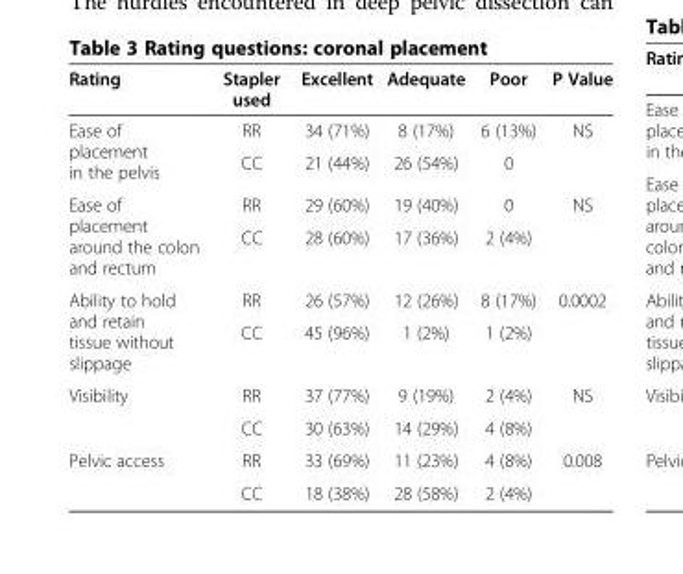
<table><thead><tr><td>Rating</td><td>Stapler used</td><td>Excellent</td><td>Adequate</td><td>Poor</td><td>P Value</td></tr></thead><tbody><tr><td rowspan="2">Ease of placement in the pelvis</td><td>RR</td><td>34 (71%)</td><td>8 (17%)</td><td>6 (13%)</td><td rowspan="2">NS</td></tr><tr><td>CC</td><td>21 (44%)</td><td>26 (54%)</td><td>0</td></tr><tr><td rowspan="2">Ease of placement around the colon and rectum</td><td>RR</td><td>29 (60%)</td><td>19 (40%)</td><td>0</td><td rowspan="2">NS</td></tr><tr><td>CC</td><td>28 (60%)</td><td>17 (36%)</td><td>2 (4%)</td></tr><tr><td rowspan="2">Ability to hold and retain tissue without slippage</td><td>RR</td><td>26 (57%)</td><td>12 (26%)</td><td>8 (17%)</td><td rowspan="2">0.0002</td></tr><tr><td>CC</td><td>45 (96%)</td><td>1 (2%)</td><td>1 (2%)</td></tr><tr><td rowspan="2">Visibility</td><td>RR</td><td>37 (77%)</td><td>9 (19%)</td><td>2 (4%)</td><td rowspan="2">NS</td></tr><tr><td>CC</td><td>30 (63%)</td><td>14 (29%)</td><td>4 (8%)</td></tr><tr><td rowspan="2">Pelvic access</td><td>RR</td><td>33 (69%)</td><td>11 (23%)</td><td>4 (8%)</td><td>0.008</td></tr><tr><td>CC</td><td>18 (38%)</td><td>28 (58%)</td><td>2 (4%)</td><td></td></tr></tbody></table>